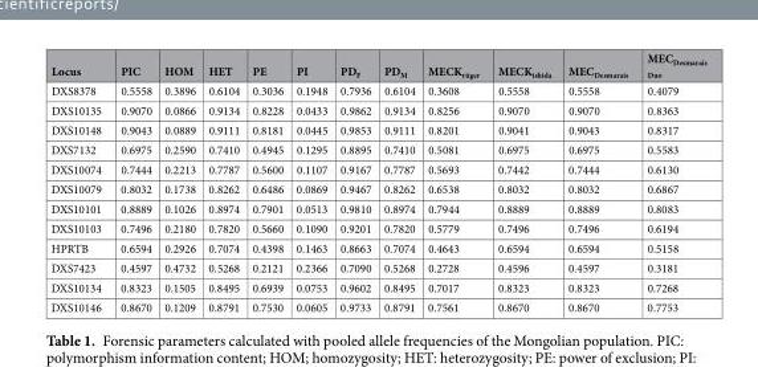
<table><thead><tr><td>Locus</td><td>PIC</td><td>HOM</td><td>HET</td><td>PE</td><td>PI</td><td>PD<sub>F</sub></td><td>PD<sub>M</sub></td><td>MECK<sub>rüger</sub></td><td>MECK<sub>ishida</sub></td><td>MEC<sub>Desmarais</sub></td><td>MEC<sub>Desmarais Duo</sub></td></tr></thead><tbody><tr><td>DXS8378</td><td>0.5558</td><td>0.3896</td><td>0.6104</td><td>0.3036</td><td>0.1948</td><td>0.7936</td><td>0.6104</td><td>0.3608</td><td>0.5558</td><td>0.5558</td><td>0.4079</td></tr><tr><td>DXS10135</td><td>0.9070</td><td>0.0866</td><td>0.9134</td><td>0.8228</td><td>0.0433</td><td>0.9862</td><td>0.9134</td><td>0.8256</td><td>0.9070</td><td>0.9070</td><td>0.8363</td></tr><tr><td>DXS10148</td><td>0.9043</td><td>0.0889</td><td>0.9111</td><td>0.8181</td><td>0.0445</td><td>0.9853</td><td>0.9111</td><td>0.8201</td><td>0.9041</td><td>0.9043</td><td>0.8317</td></tr><tr><td>DXS7132</td><td>0.6975</td><td>0.2590</td><td>0.7410</td><td>0.4945</td><td>0.1295</td><td>0.8895</td><td>0.7410</td><td>0.5081</td><td>0.6975</td><td>0.6975</td><td>0.5583</td></tr><tr><td>DXS10074</td><td>0.7444</td><td>0.2213</td><td>0.7787</td><td>0.5600</td><td>0.1107</td><td>0.9167</td><td>0.7787</td><td>0.5693</td><td>0.7442</td><td>0.7444</td><td>0.6130</td></tr><tr><td>DXS10079</td><td>0.8032</td><td>0.1738</td><td>0.8262</td><td>0.6486</td><td>0.0869</td><td>0.9467</td><td>0.8262</td><td>0.6538</td><td>0.8032</td><td>0.8032</td><td>0.6867</td></tr><tr><td>DXS10101</td><td>0.8889</td><td>0.1026</td><td>0.8974</td><td>0.7901</td><td>0.0513</td><td>0.9810</td><td>0.8974</td><td>0.7944</td><td>0.8889</td><td>0.8889</td><td>0.8083</td></tr><tr><td>DXS10103</td><td>0.7496</td><td>0.2180</td><td>0.7820</td><td>0.5660</td><td>0.1090</td><td>0.9201</td><td>0.7820</td><td>0.5779</td><td>0.7496</td><td>0.7496</td><td>0.6194</td></tr><tr><td>HPRTB</td><td>0.6594</td><td>0.2926</td><td>0.7074</td><td>0.4398</td><td>0.1463</td><td>0.8663</td><td>0.7074</td><td>0.4643</td><td>0.6594</td><td>0.6594</td><td>0.5158</td></tr><tr><td>DXS7423</td><td>0.4597</td><td>0.4732</td><td>0.5268</td><td>0.2121</td><td>0.2366</td><td>0.7090</td><td>0.5268</td><td>0.2728</td><td>0.4596</td><td>0.4597</td><td>0.3181</td></tr><tr><td>DXS10134</td><td>0.8323</td><td>0.1505</td><td>0.8495</td><td>0.6939</td><td>0.0753</td><td>0.9602</td><td>0.8495</td><td>0.7017</td><td>0.8323</td><td>0.8323</td><td>0.7268</td></tr><tr><td>DXS10146</td><td>0.8670</td><td>0.1209</td><td>0.8791</td><td>0.7530</td><td>0.0605</td><td>0.9733</td><td>0.8791</td><td>0.7561</td><td>0.8670</td><td>0.8670</td><td>0.7753</td></tr></tbody></table>